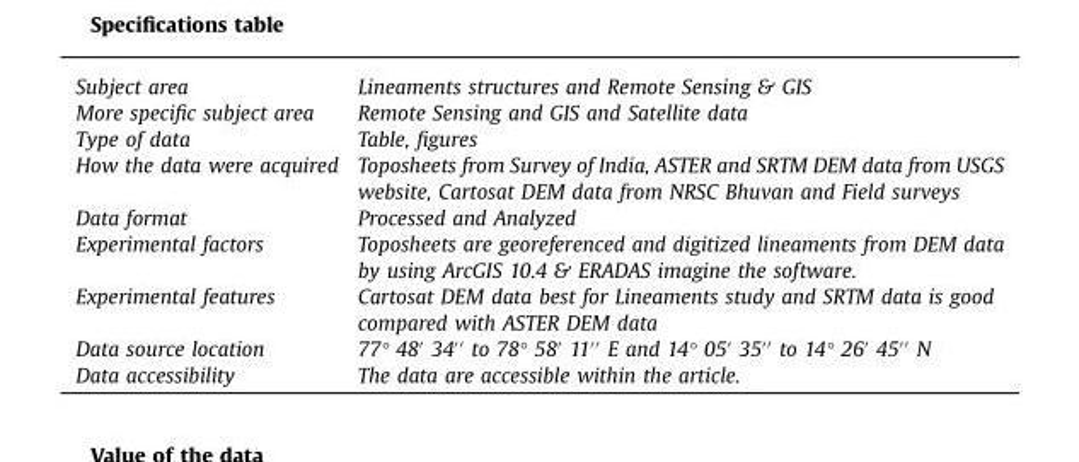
<table><tbody><tr><td>Subject area</td><td>Lineaments structures and Remote Sensing &amp; GIS</td></tr><tr><td>More specific subject area</td><td>Remote Sensing and GIS and Satellite data</td></tr><tr><td>Type of data</td><td>Table, figures</td></tr><tr><td>How the data were acquired</td><td>Toposheets from Survey of India, ASTER and SRTM DEM data from USGS website, Cartosat DEM data from NRSC Bhuvan and Field surveys</td></tr><tr><td>Data format</td><td>Processed and Analyzed</td></tr><tr><td>Experimental factors</td><td>Toposheets are georeferenced and digitized lineaments from DEM data by using ArcGIS 10.4 &amp; ERADAS imagine the software.</td></tr><tr><td>Experimental features</td><td>Cartosat DEM data best for Lineaments study and SRTM data is good compared with ASTER DEM data</td></tr><tr><td>Data source location</td><td>77° 48′ 34′′ to 78° 58′ 11′′ E and 14° 05′ 35′′ to 14° 26′ 45′′ N</td></tr><tr><td>Data accessibility</td><td>The data are accessible within the article.</td></tr></tbody></table>